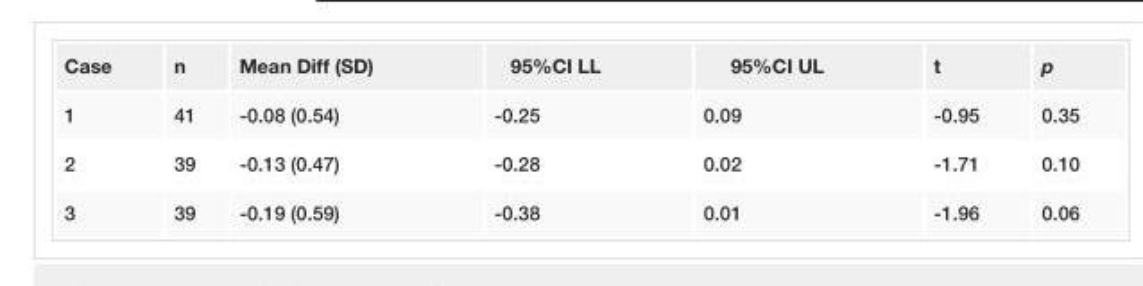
<table><tbody><tr><td>Case</td><td>n</td><td>Mean Diff (SD)</td><td>95%CI LL</td><td>95%CI UL</td><td>t</td><td>p</td></tr><tr><td>1</td><td>41</td><td>-0.08 (0.54)</td><td>-0.25</td><td>0.09</td><td>-0.95</td><td>0.35</td></tr><tr><td>2</td><td>39</td><td>-0.13 (0.47)</td><td>-0.28</td><td>0.02</td><td>-1.71</td><td>0.10</td></tr><tr><td>3</td><td>39</td><td>-0.19 (0.59)</td><td>-0.38</td><td>0.01</td><td>-1.96</td><td>0.06</td></tr></tbody></table>